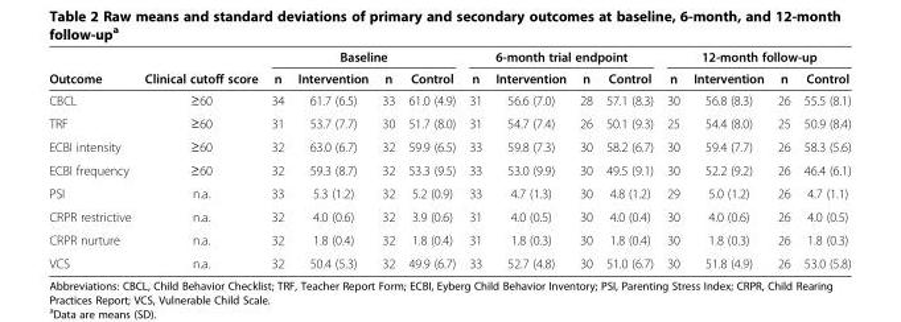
<table><thead><tr><td rowspan="2">Outcome</td><td rowspan="2">Clinical cutoff score</td><td colspan="4">Baseline</td><td colspan="4">6-month trial endpoint</td><td colspan="4">12-month follow-up</td></tr><tr><td>n</td><td>Intervention</td><td>n</td><td>Control</td><td>n</td><td>Intervention</td><td>n</td><td>Control</td><td>n</td><td>Intervention</td><td>n</td><td>Control</td></tr></thead><tbody><tr><td>CBCL</td><td>≥60</td><td>34</td><td>61.7 (6.5)</td><td>33</td><td>61.0 (4.9)</td><td>31</td><td>56.6 (7.0)</td><td>28</td><td>57.1 (8.3)</td><td>30</td><td>56.8 (8.3)</td><td>26</td><td>55.5 (8.1)</td></tr><tr><td>TRF</td><td>≥60</td><td>31</td><td>53.7 (7.7)</td><td>30</td><td>51.7 (8.0)</td><td>31</td><td>54.7 (7.4)</td><td>26</td><td>50.1 (9.3)</td><td>25</td><td>54.4 (8.0)</td><td>25</td><td>50.9 (8.4)</td></tr><tr><td>ECBI intensity</td><td>≥60</td><td>32</td><td>63.0 (6.7)</td><td>32</td><td>59.9 (6.5)</td><td>33</td><td>59.8 (7.3)</td><td>30</td><td>58.2 (6.7)</td><td>30</td><td>59.4 (7.7)</td><td>26</td><td>58.3 (5.6)</td></tr><tr><td>ECBI frequency</td><td>≥60</td><td>32</td><td>59.3 (8.7)</td><td>32</td><td>53.3 (9.5)</td><td>33</td><td>53.0 (9.9)</td><td>30</td><td>49.5 (9.1)</td><td>30</td><td>52.2 (9.2)</td><td>26</td><td>46.4 (6.1)</td></tr><tr><td>PSI</td><td>n.a.</td><td>33</td><td>5.3 (1.2)</td><td>32</td><td>5.2 (0.9)</td><td>33</td><td>4.7 (1.3)</td><td>30</td><td>4.8 (1.2)</td><td>29</td><td>5.0 (1.2)</td><td>26</td><td>4.7 (1.1)</td></tr><tr><td>CRPR restrictive</td><td>n.a.</td><td>32</td><td>4.0 (0.6)</td><td>32</td><td>3.9 (0.6)</td><td>31</td><td>4.0 (0.5)</td><td>30</td><td>4.0 (0.4)</td><td>30</td><td>4.0 (0.6)</td><td>26</td><td>4.0 (0.5)</td></tr><tr><td>CRPR nurture</td><td>n.a.</td><td>32</td><td>1.8 (0.4)</td><td>32</td><td>1.8 (0.4)</td><td>31</td><td>1.8 (0.3)</td><td>30</td><td>1.8 (0.4)</td><td>30</td><td>1.8 (0.3)</td><td>26</td><td>1.8 (0.3)</td></tr><tr><td>VCS</td><td>n.a.</td><td>32</td><td>50.4 (5.3)</td><td>32</td><td>49.9 (6.7)</td><td>33</td><td>52.7 (4.8)</td><td>30</td><td>51.0 (6.7)</td><td>30</td><td>51.8 (4.9)</td><td>26</td><td>53.0 (5.8)</td></tr></tbody></table>